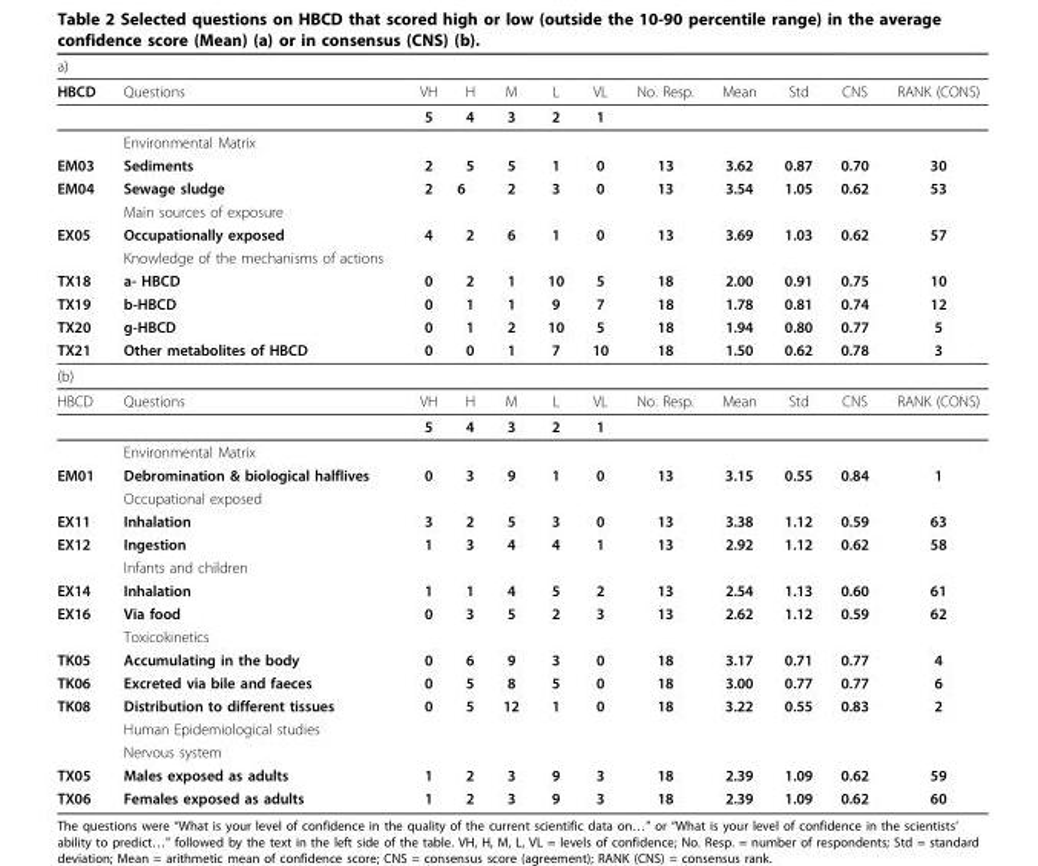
<table><thead><tr><td colspan="12">a)</td></tr><tr><td>HBCD</td><td>Questions</td><td>VH</td><td>H</td><td>M</td><td>L</td><td>VL</td><td>No. Resp.</td><td>Mean</td><td>Std</td><td>CNS</td><td>RANK (CONS)</td></tr></thead><tbody><tr><td></td><td></td><td>5</td><td>4</td><td>3</td><td>2</td><td>1</td><td></td><td></td><td></td><td></td><td></td></tr><tr><td></td><td>Environmental Matrix</td><td></td><td></td><td></td><td></td><td></td><td></td><td></td><td></td><td></td><td></td></tr><tr><td>EM03</td><td>Sediments</td><td>2</td><td>5</td><td>5</td><td>1</td><td>0</td><td>13</td><td>3.62</td><td>0.87</td><td>0.70</td><td>30</td></tr><tr><td rowspan="2">EM04</td><td>Sewage sludge</td><td>2</td><td>6</td><td>2</td><td>3</td><td>0</td><td>13</td><td>3.54</td><td>1.05</td><td>0.62</td><td>53</td></tr><tr><td>Main sources of exposure</td><td></td><td></td><td></td><td></td><td></td><td></td><td></td><td></td><td></td><td></td></tr><tr><td rowspan="2">EX05</td><td>Occupationally exposed</td><td>4</td><td>2</td><td>6</td><td>1</td><td>0</td><td>13</td><td>3.69</td><td>1.03</td><td>0.62</td><td>57</td></tr><tr><td>Knowledge of the mechanisms of actions</td><td></td><td></td><td></td><td></td><td></td><td></td><td></td><td></td><td></td><td></td></tr><tr><td>TX18</td><td>a- HBCD</td><td>0</td><td>2</td><td>1</td><td>10</td><td>5</td><td>18</td><td>2.00</td><td>0.91</td><td>0.75</td><td>10</td></tr><tr><td>TX19</td><td>b-HBCD</td><td>0</td><td>1</td><td>1</td><td>9</td><td>7</td><td>18</td><td>1.78</td><td>0.81</td><td>0.74</td><td>12</td></tr><tr><td>TX20</td><td>g-HBCD</td><td>0</td><td>1</td><td>2</td><td>10</td><td>5</td><td>18</td><td>1.94</td><td>0.80</td><td>0.77</td><td>5</td></tr><tr><td>TX21</td><td>Other metabolites of HBCD</td><td>0</td><td>0</td><td>1</td><td>7</td><td>10</td><td>18</td><td>1.50</td><td>0.62</td><td>0.78</td><td>3</td></tr><tr><td colspan="12">(b)</td></tr><tr><td rowspan="3">HBCD</td><td>Questions</td><td>VH</td><td>H</td><td>M</td><td>L</td><td>VL</td><td>No. Resp.</td><td>Mean</td><td>Std</td><td>CNS</td><td>RANK (CONS)</td></tr><tr><td></td><td>5</td><td>4</td><td>3</td><td>2</td><td>1</td><td></td><td></td><td></td><td></td><td></td></tr><tr><td>Environmental Matrix</td><td></td><td></td><td></td><td></td><td></td><td></td><td></td><td></td><td></td><td></td></tr><tr><td rowspan="2">EM01</td><td>Debromination &amp; biological halflives</td><td>0</td><td>3</td><td>9</td><td>1</td><td>0</td><td>13</td><td>3.15</td><td>0.55</td><td>0.84</td><td>1</td></tr><tr><td>Occupational exposed</td><td></td><td></td><td></td><td></td><td></td><td></td><td></td><td></td><td></td><td></td></tr><tr><td>EX11</td><td>Inhalation</td><td>3</td><td>2</td><td>5</td><td>3</td><td>0</td><td>13</td><td>3.38</td><td>1.12</td><td>0.59</td><td>63</td></tr><tr><td rowspan="2">EX12</td><td>Ingestion</td><td>1</td><td>3</td><td>4</td><td>4</td><td>1</td><td>13</td><td>2.92</td><td>1.12</td><td>0.62</td><td>58</td></tr><tr><td>Infants and children</td><td></td><td></td><td></td><td></td><td></td><td></td><td></td><td></td><td></td><td></td></tr><tr><td>EX14</td><td>Inhalation</td><td>1</td><td>1</td><td>4</td><td>5</td><td>2</td><td>13</td><td>2.54</td><td>1.13</td><td>0.60</td><td>61</td></tr><tr><td rowspan="2">EX16</td><td>Via food</td><td>0</td><td>3</td><td>5</td><td>2</td><td>3</td><td>13</td><td>2.62</td><td>1.12</td><td>0.59</td><td>62</td></tr><tr><td>Toxicokinetics</td><td></td><td></td><td></td><td></td><td></td><td></td><td></td><td></td><td></td><td></td></tr><tr><td>TK05</td><td>Accumulating in the body</td><td>0</td><td>6</td><td>9</td><td>3</td><td>0</td><td>18</td><td>3.17</td><td>0.71</td><td>0.77</td><td>4</td></tr><tr><td>TK06</td><td>Excreted via bile and faeces</td><td>0</td><td>5</td><td>8</td><td>5</td><td>0</td><td>18</td><td>3.00</td><td>0.77</td><td>0.77</td><td>6</td></tr><tr><td rowspan="3">TK08</td><td>Distribution to different tissues</td><td>0</td><td>5</td><td>12</td><td>1</td><td>0</td><td>18</td><td>3.22</td><td>0.55</td><td>0.83</td><td>2</td></tr><tr><td>Human Epidemiological studies</td><td></td><td></td><td></td><td></td><td></td><td></td><td></td><td></td><td></td><td></td></tr><tr><td>Nervous system</td><td></td><td></td><td></td><td></td><td></td><td></td><td></td><td></td><td></td><td></td></tr><tr><td>TX05</td><td>Males exposed as adults</td><td>1</td><td>2</td><td>3</td><td>9</td><td>3</td><td>18</td><td>2.39</td><td>1.09</td><td>0.62</td><td>59</td></tr><tr><td>TX06</td><td>Females exposed as adults</td><td>1</td><td>2</td><td>3</td><td>9</td><td>3</td><td>18</td><td>2.39</td><td>1.09</td><td>0.62</td><td>60</td></tr></tbody></table>